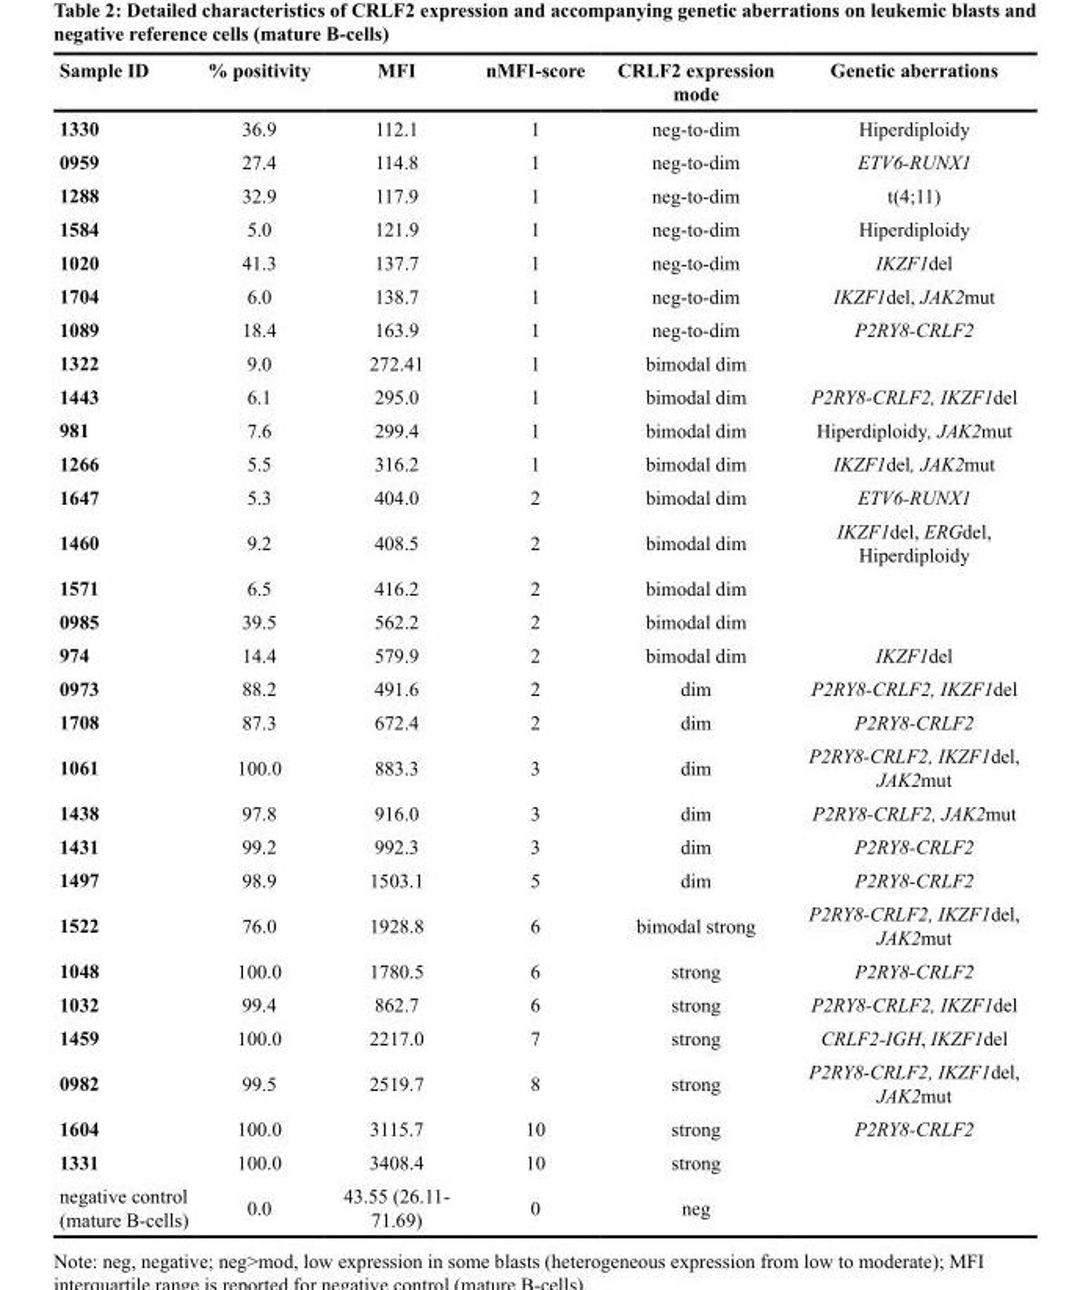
<table><thead><tr><td>Sample ID</td><td>% positivity</td><td>MFI</td><td>nMFI-score</td><td>CRLF2 expression mode</td><td>Genetic aberrations</td></tr></thead><tbody><tr><td>1330</td><td>36.9</td><td>112.1</td><td>1</td><td>neg-to-dim</td><td>Hiperdiploidy</td></tr><tr><td>0959</td><td>27.4</td><td>114.8</td><td>1</td><td>neg-to-dim</td><td>ETV6-RUNX1</td></tr><tr><td>1288</td><td>32.9</td><td>117.9</td><td>1</td><td>neg-to-dim</td><td>t(4;11)</td></tr><tr><td>1584</td><td>5.0</td><td>121.9</td><td>1</td><td>neg-to-dim</td><td>Hiperdiploidy</td></tr><tr><td>1020</td><td>41.3</td><td>137.7</td><td>1</td><td>neg-to-dim</td><td>IKZF1del</td></tr><tr><td>1704</td><td>6.0</td><td>138.7</td><td>1</td><td>neg-to-dim</td><td>IKZF1del, JAK2mut</td></tr><tr><td>1089</td><td>18.4</td><td>163.9</td><td>1</td><td>neg-to-dim</td><td>P2RY8-CRLF2</td></tr><tr><td>1322</td><td>9.0</td><td>272.41</td><td>1</td><td>bimodal dim</td><td></td></tr><tr><td>1443</td><td>6.1</td><td>295.0</td><td>1</td><td>bimodal dim</td><td>P2RY8-CRLF2, IKZF1del</td></tr><tr><td>981</td><td>7.6</td><td>299.4</td><td>1</td><td>bimodal dim</td><td>Hiperdiploidy, JAK2mut</td></tr><tr><td>1266</td><td>5.5</td><td>316.2</td><td>1</td><td>bimodal dim</td><td>IKZF1del, JAK2mut</td></tr><tr><td>1647</td><td>5.3</td><td>404.0</td><td>2</td><td>bimodal dim</td><td>ETV6-RUNX1</td></tr><tr><td>1460</td><td>9.2</td><td>408.5</td><td>2</td><td>bimodal dim</td><td>IKZF1del, ERGdel, Hiperdiploidy</td></tr><tr><td>1571</td><td>6.5</td><td>416.2</td><td>2</td><td>bimodal dim</td><td></td></tr><tr><td>0985</td><td>39.5</td><td>562.2</td><td>2</td><td>bimodal dim</td><td></td></tr><tr><td>974</td><td>14.4</td><td>579.9</td><td>2</td><td>bimodal dim</td><td>IKZF1del</td></tr><tr><td>0973</td><td>88.2</td><td>491.6</td><td>2</td><td>dim</td><td>P2RY8-CRLF2, IKZF1del</td></tr><tr><td>1708</td><td>87.3</td><td>672.4</td><td>2</td><td>dim</td><td>P2RY8-CRLF2</td></tr><tr><td>1061</td><td>100.0</td><td>883.3</td><td>3</td><td>dim</td><td>P2RY8-CRLF2, IKZF1del, JAK2mut</td></tr><tr><td>1438</td><td>97.8</td><td>916.0</td><td>3</td><td>dim</td><td>P2RY8-CRLF2, JAK2mut</td></tr><tr><td>1431</td><td>99.2</td><td>992.3</td><td>3</td><td>dim</td><td>P2RY8-CRLF2</td></tr><tr><td>1497</td><td>98.9</td><td>1503.1</td><td>5</td><td>dim</td><td>P2RY8-CRLF2</td></tr><tr><td>1522</td><td>76.0</td><td>1928.8</td><td>6</td><td>bimodal strong</td><td>P2RY8-CRLF2, IKZF1del, JAK2mut</td></tr><tr><td>1048</td><td>100.0</td><td>1780.5</td><td>6</td><td>strong</td><td>P2RY8-CRLF2</td></tr><tr><td>1032</td><td>99.4</td><td>862.7</td><td>6</td><td>strong</td><td>P2RY8-CRLF2, IKZF1del</td></tr><tr><td>1459</td><td>100.0</td><td>2217.0</td><td>7</td><td>strong</td><td>CRLF2-IGH, IKZF1del</td></tr><tr><td>0982</td><td>99.5</td><td>2519.7</td><td>8</td><td>strong</td><td>P2RY8-CRLF2, IKZF1del, JAK2mut</td></tr><tr><td>1604</td><td>100.0</td><td>3115.7</td><td>10</td><td>strong</td><td>P2RY8-CRLF2</td></tr><tr><td>1331</td><td>100.0</td><td>3408.4</td><td>10</td><td>strong</td><td></td></tr><tr><td>negative control (mature B-cells)</td><td>0.0</td><td>43.55 (26.11- 71.69)</td><td>0</td><td>neg</td><td></td></tr></tbody></table>